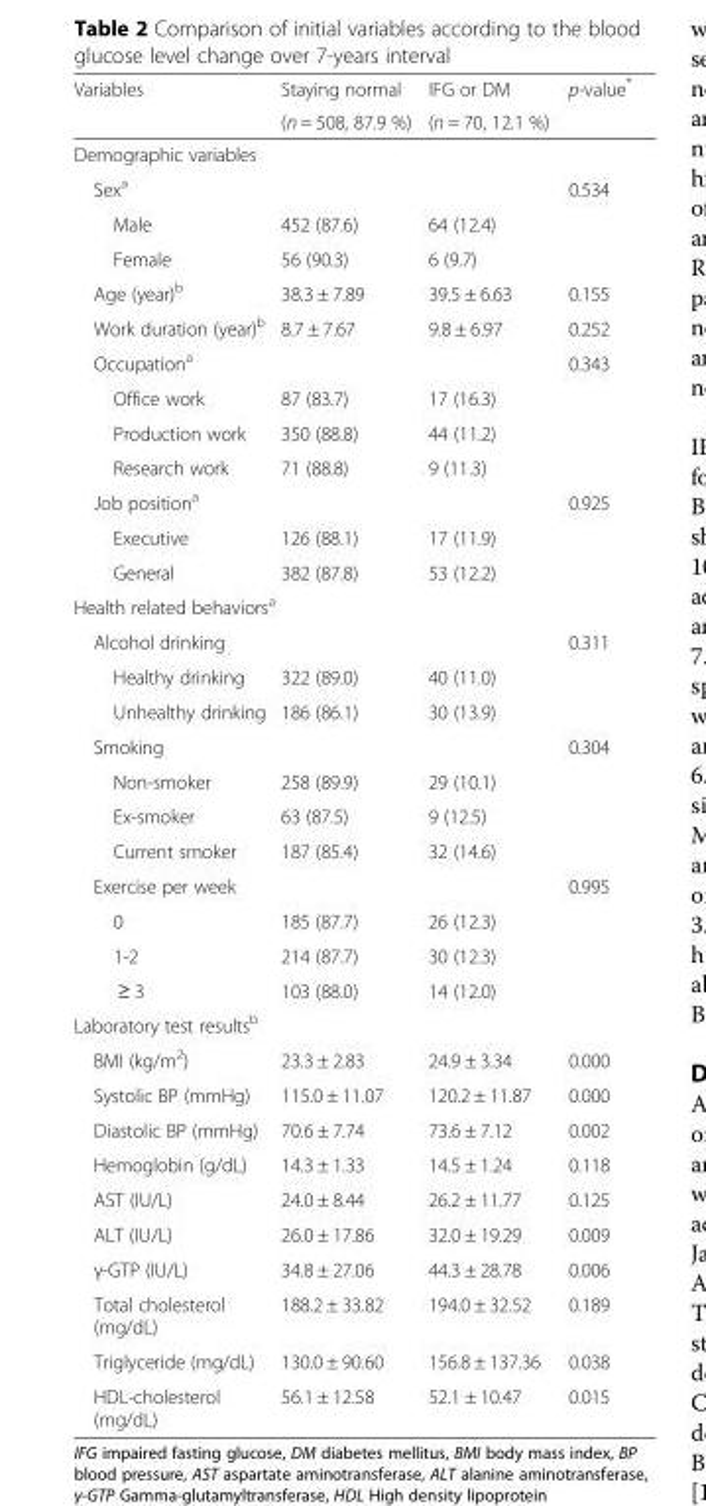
<table><thead><tr><td rowspan="2">Variables</td><td rowspan="2">Staying normal (n = 508, 87.9 %)</td><td rowspan="2">IFG or DM (n = 70, 12.1 %)</td><td rowspan="2">p-value*</td></tr><tr></tr></thead><tbody><tr><td colspan="4">Demographic variables</td></tr><tr><td>Sex<sup>a</sup></td><td></td><td></td><td>0.534</td></tr><tr><td>Male</td><td>452 (87.6)</td><td>64 (12.4)</td><td></td></tr><tr><td>Female</td><td>56 (90.3)</td><td>6 (9.7)</td><td></td></tr><tr><td>Age (year)<sup>b</sup></td><td>38.3 ± 7.89</td><td>39.5 ± 6.63</td><td>0.155</td></tr><tr><td>Work duration (year)<sup>b</sup></td><td>8.7 ± 7.67</td><td>9.8 ± 6.97</td><td>0.252</td></tr><tr><td>Occupation<sup>a</sup></td><td></td><td></td><td>0.343</td></tr><tr><td>Office work</td><td>87 (83.7)</td><td>17 (16.3)</td><td></td></tr><tr><td>Production work</td><td>350 (88.8)</td><td>44 (11.2)</td><td></td></tr><tr><td>Research work</td><td>71 (88.8)</td><td>9 (11.3)</td><td></td></tr><tr><td>Job position<sup>a</sup></td><td></td><td></td><td>0.925</td></tr><tr><td>Executive</td><td>126 (88.1)</td><td>17 (11.9)</td><td></td></tr><tr><td>General</td><td>382 (87.8)</td><td>53 (12.2)</td><td></td></tr><tr><td colspan="4">Health related behaviors<sup>a</sup></td></tr><tr><td>Alcohol drinking</td><td></td><td></td><td>0.311</td></tr><tr><td>Healthy drinking</td><td>322 (89.0)</td><td>40 (11.0)</td><td></td></tr><tr><td>Unhealthy drinking</td><td>186 (86.1)</td><td>30 (13.9)</td><td></td></tr><tr><td>Smoking</td><td></td><td></td><td>0.304</td></tr><tr><td>Non-smoker</td><td>258 (89.9)</td><td>29 (10.1)</td><td></td></tr><tr><td>Ex-smoker</td><td>63 (87.5)</td><td>9 (12.5)</td><td></td></tr><tr><td>Current smoker</td><td>187 (85.4)</td><td>32 (14.6)</td><td></td></tr><tr><td>Exercise per week</td><td></td><td></td><td>0.995</td></tr><tr><td>0</td><td>185 (87.7)</td><td>26 (12.3)</td><td></td></tr><tr><td>1-2</td><td>214 (87.7)</td><td>30 (12.3)</td><td></td></tr><tr><td>≥ 3</td><td>103 (88.0)</td><td>14 (12.0)</td><td></td></tr><tr><td colspan="4">Laboratory test results<sup>b</sup></td></tr><tr><td>BMI (kg/m<sup>2</sup>)</td><td>23.3 ± 2.83</td><td>24.9 ± 3.34</td><td>0.000</td></tr><tr><td>Systolic BP (mmHg)</td><td>115.0 ± 11.07</td><td>120.2 ± 11.87</td><td>0.000</td></tr><tr><td>Diastolic BP (mmHg)</td><td>70.6 ± 7.74</td><td>73.6 ± 7.12</td><td>0.002</td></tr><tr><td>Hemoglobin (g/dL)</td><td>14.3 ± 1.33</td><td>14.5 ± 1.24</td><td>0.118</td></tr><tr><td>AST (IU/L)</td><td>24.0 ± 8.44</td><td>26.2 ± 11.77</td><td>0.125</td></tr><tr><td>ALT (IU/L)</td><td>26.0 ± 17.86</td><td>32.0 ± 19.29</td><td>0.009</td></tr><tr><td>γ-GTP (IU/L)</td><td>34.8 ± 27.06</td><td>44.3 ± 28.78</td><td>0.006</td></tr><tr><td>Total cholesterol (mg/dL)</td><td>188.2 ± 33.82</td><td>194.0 ± 32.52</td><td>0.189</td></tr><tr><td>Triglyceride (mg/dL)</td><td>130.0 ± 90.60</td><td>156.8 ± 137.36</td><td>0.038</td></tr><tr><td>HDL-cholesterol (mg/dL)</td><td>56.1 ± 12.58</td><td>52.1 ± 10.47</td><td>0.015</td></tr></tbody></table>